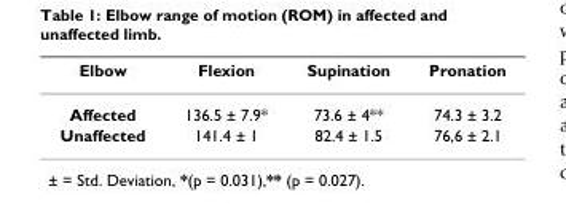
<table><thead><tr><td>Elbow</td><td>Flexion</td><td>Supination</td><td>Pronation</td></tr></thead><tbody><tr><td>Affected</td><td>136.5 ± 7.9*</td><td>73.6 ± 4**</td><td>74.3 ± 3.2</td></tr><tr><td>Unaffected</td><td>141.4 ± 1</td><td>82.4 ± 1.5</td><td>76,6 ± 2.1</td></tr></tbody></table>